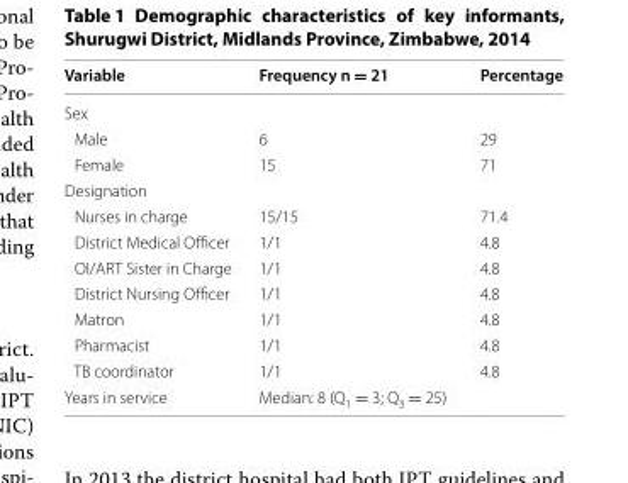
<table><thead><tr><td>Variable</td><td>Frequency n = 21</td><td>Percentage</td></tr></thead><tbody><tr><td colspan="3">Sex</td></tr><tr><td>Male</td><td>6</td><td>29</td></tr><tr><td>Female</td><td>15</td><td>71</td></tr><tr><td colspan="3">Designation</td></tr><tr><td>Nurses in charge</td><td>15/15</td><td>71.4</td></tr><tr><td>District Medical Officer</td><td>1/1</td><td>4.8</td></tr><tr><td>OI/ART Sister in Charge</td><td>1/1</td><td>4.8</td></tr><tr><td>District Nursing Officer</td><td>1/1</td><td>4.8</td></tr><tr><td>Matron</td><td>1/1</td><td>4.8</td></tr><tr><td>Pharmacist</td><td>1/1</td><td>4.8</td></tr><tr><td>TB coordinator</td><td>1/1</td><td>4.8</td></tr><tr><td>Years in service</td><td>Median: 8 (Q<sub>1</sub> = 3; Q<sub>3</sub> = 25)</td><td></td></tr></tbody></table>